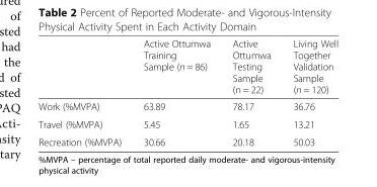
<table><thead><tr><td></td><td>Active Ottumwa Training Sample (n = 86)</td><td>Active Ottumwa Testing Sample (n = 22)</td><td>Living Well Together Validation Sample (n = 120)</td></tr></thead><tbody><tr><td>Work (%MVPA)</td><td>63.89</td><td>78.17</td><td>36.76</td></tr><tr><td>Travel (%MVPA)</td><td>5.45</td><td>1.65</td><td>13.21</td></tr><tr><td>Recreation (%MVPA)</td><td>30.66</td><td>20.18</td><td>50.03</td></tr></tbody></table>